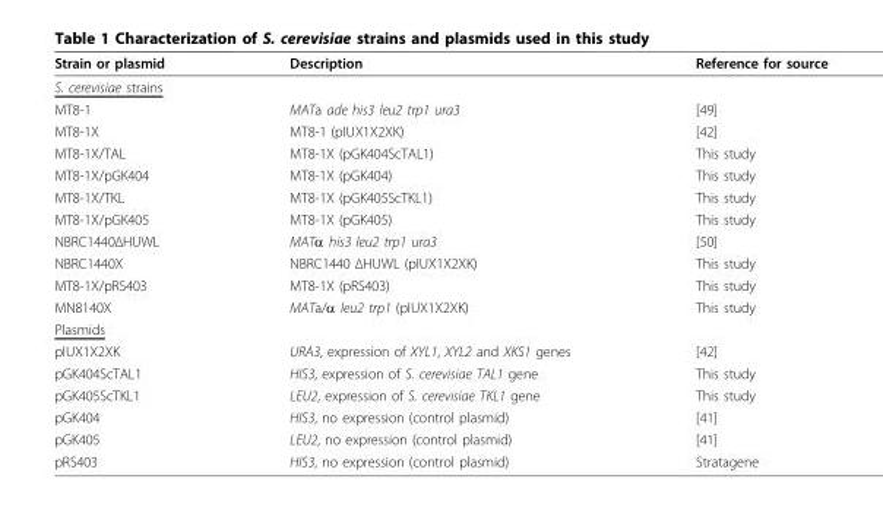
<table><thead><tr><td>Strain or plasmid</td><td>Description</td><td>Reference for source</td></tr></thead><tbody><tr><td colspan="3">S. cerevisiae strains</td></tr><tr><td>MT8-1</td><td>MATa ade his3 leu2 trp1 ura3</td><td>[49]</td></tr><tr><td>MT8-1X</td><td>MT8-1 (pIUX1X2XK)</td><td>[42]</td></tr><tr><td>MT8-1X/TAL</td><td>MT8-1X (pGK404ScTAL1)</td><td>This study</td></tr><tr><td>MT8-1X/pGK404</td><td>MT8-1X (pGK404)</td><td>This study</td></tr><tr><td>MT8-1X/TKL</td><td>MT8-1X (pGK405ScTKL1)</td><td>This study</td></tr><tr><td>MT8-1X/pGK405</td><td>MT8-1X (pGK405)</td><td>This study</td></tr><tr><td>NBRC1440ΔHUWL</td><td>MATα his3 leu2 trp1 ura3</td><td>[50]</td></tr><tr><td>NBRC1440X</td><td>NBRC1440 ΔHUWL (pIUX1X2XK)</td><td>This study</td></tr><tr><td>MT8-1X/pRS403</td><td>MT8-1X (pRS403)</td><td>This study</td></tr><tr><td>MN8140X</td><td>MATa/α leu2 trp1 (pIUX1X2XK)</td><td>This study</td></tr><tr><td colspan="3">Plasmids</td></tr><tr><td>pIUX1X2XK</td><td>URA3, expression of XYL1, XYL2 and XKS1 genes</td><td>[42]</td></tr><tr><td>pGK404ScTAL1</td><td>HIS3, expression of S. cerevisiae TAL1 gene</td><td>This study</td></tr><tr><td>pGK405ScTKL1</td><td>LEU2, expression of S. cerevisiae TKL1 gene</td><td>This study</td></tr><tr><td>pGK404</td><td>HIS3, no expression (control plasmid)</td><td>[41]</td></tr><tr><td>pGK405</td><td>LEU2, no expression (control plasmid)</td><td>[41]</td></tr><tr><td>pRS403</td><td>HIS3, no expression (control plasmid)</td><td>Stratagene</td></tr></tbody></table>